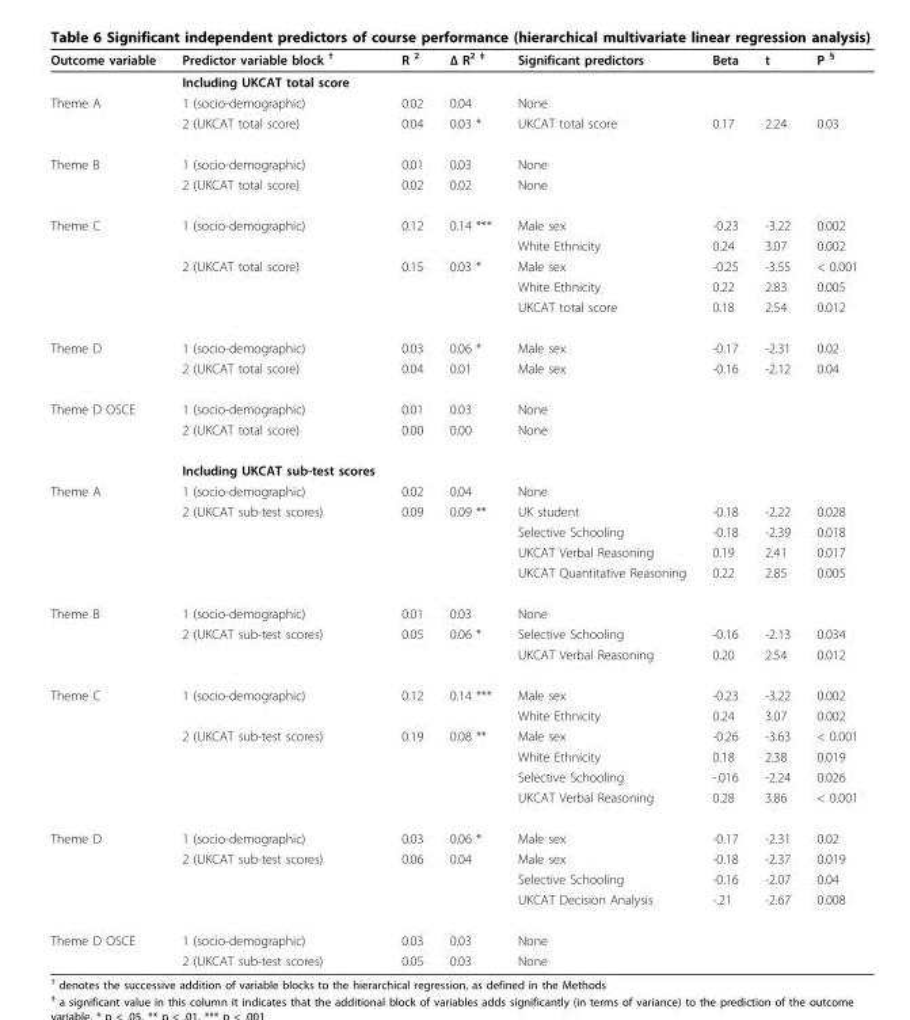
<table><thead><tr><td>Outcome variable</td><td>Predictor variable block <sup>†</sup></td><td>R <sup>2</sup></td><td>Δ R<sup>2 ‡</sup></td><td>Significant predictors</td><td>Beta</td><td>t</td><td>P <sup>§</sup></td></tr></thead><tbody><tr><td></td><td>Including UKCAT total score</td><td></td><td></td><td></td><td></td><td></td><td></td></tr><tr><td rowspan="2">Theme A</td><td>1 (socio-demographic)</td><td>0.02</td><td>0.04</td><td>None</td><td></td><td></td><td></td></tr><tr><td>2 (UKCAT total score)</td><td>0.04</td><td>0.03 *</td><td>UKCAT total score</td><td>0.17</td><td>2.24</td><td>0.03</td></tr><tr><td rowspan="2">Theme B</td><td>1 (socio-demographic)</td><td>0.01</td><td>0.03</td><td>None</td><td></td><td></td><td></td></tr><tr><td>2 (UKCAT total score)</td><td>0.02</td><td>0.02</td><td>None</td><td></td><td></td><td></td></tr><tr><td rowspan="5">Theme C</td><td>1 (socio-demographic)</td><td>0.12</td><td>0.14 ***</td><td>Male sex</td><td>-0.23</td><td>-3.22</td><td>0.002</td></tr><tr><td></td><td></td><td></td><td>White Ethnicity</td><td>0.24</td><td>3.07</td><td>0.002</td></tr><tr><td>2 (UKCAT total score)</td><td>0.15</td><td>0.03 *</td><td>Male sex</td><td>-0.25</td><td>-3.55</td><td>&lt; 0.001</td></tr><tr><td></td><td></td><td></td><td>White Ethnicity</td><td>0.22</td><td>2.83</td><td>0.005</td></tr><tr><td></td><td></td><td></td><td>UKCAT total score</td><td>0.18</td><td>2.54</td><td>0.012</td></tr><tr><td rowspan="2">Theme D</td><td>1 (socio-demographic)</td><td>0.03</td><td>0.06 *</td><td>Male sex</td><td>-0.17</td><td>-2.31</td><td>0.02</td></tr><tr><td>2 (UKCAT total score)</td><td>0.04</td><td>0.01</td><td>Male sex</td><td>-0.16</td><td>-2.12</td><td>0.04</td></tr><tr><td rowspan="3">Theme D OSCE</td><td>1 (socio-demographic)</td><td>0.01</td><td>0.03</td><td>None</td><td></td><td></td><td></td></tr><tr><td>2 (UKCAT total score)</td><td>0.00</td><td>0.00</td><td>None</td><td></td><td></td><td></td></tr><tr><td>Including UKCAT sub-test scores</td><td></td><td></td><td></td><td></td><td></td><td></td></tr><tr><td rowspan="5">Theme A</td><td>1 (socio-demographic)</td><td>0.02</td><td>0.04</td><td>None</td><td></td><td></td><td></td></tr><tr><td>2 (UKCAT sub-test scores)</td><td>0.09</td><td>0.09 **</td><td>UK student</td><td>-0.18</td><td>-2.22</td><td>0.028</td></tr><tr><td></td><td></td><td></td><td>Selective Schooling</td><td>-0.18</td><td>-2.39</td><td>0.018</td></tr><tr><td></td><td></td><td></td><td>UKCAT Verbal Reasoning</td><td>0.19</td><td>2.41</td><td>0.017</td></tr><tr><td></td><td></td><td></td><td>UKCAT Quantitative Reasoning</td><td>0.22</td><td>2.85</td><td>0.005</td></tr><tr><td rowspan="3">Theme B</td><td>1 (socio-demographic)</td><td>0.01</td><td>0.03</td><td>None</td><td></td><td></td><td></td></tr><tr><td>2 (UKCAT sub-test scores)</td><td>0.05</td><td>0.06 *</td><td>Selective Schooling</td><td>-0.16</td><td>-2.13</td><td>0.034</td></tr><tr><td></td><td></td><td></td><td>UKCAT Verbal Reasoning</td><td>0.20</td><td>2.54</td><td>0.012</td></tr><tr><td rowspan="6">Theme C</td><td>1 (socio-demographic)</td><td>0.12</td><td>0.14 ***</td><td>Male sex</td><td>-0.23</td><td>-3.22</td><td>0.002</td></tr><tr><td></td><td></td><td></td><td>White Ethnicity</td><td>0.24</td><td>3.07</td><td>0.002</td></tr><tr><td>2 (UKCAT sub-test scores)</td><td>0.19</td><td>0.08 **</td><td>Male sex</td><td>-0.26</td><td>-3.63</td><td>&lt; 0.001</td></tr><tr><td></td><td></td><td></td><td>White Ethnicity</td><td>0.18</td><td>2.38</td><td>0.019</td></tr><tr><td></td><td></td><td></td><td>Selective Schooling</td><td>-.016</td><td>-2.24</td><td>0.026</td></tr><tr><td></td><td></td><td></td><td>UKCAT Verbal Reasoning</td><td>0.28</td><td>3.86</td><td>&lt; 0.001</td></tr><tr><td rowspan="4">Theme D</td><td>1 (socio-demographic)</td><td>0.03</td><td>0.06 *</td><td>Male sex</td><td>-0.17</td><td>-2.31</td><td>0.02</td></tr><tr><td>2 (UKCAT sub-test scores)</td><td>0.06</td><td>0.04</td><td>Male sex</td><td>-0.18</td><td>-2.37</td><td>0.019</td></tr><tr><td></td><td></td><td></td><td>Selective Schooling</td><td>-0.16</td><td>-2.07</td><td>0.04</td></tr><tr><td></td><td></td><td></td><td>UKCAT Decision Analysis</td><td>-.21</td><td>-2.67</td><td>0.008</td></tr><tr><td rowspan="2">Theme D OSCE</td><td>1 (socio-demographic)</td><td>0.03</td><td>0.03</td><td>None</td><td></td><td></td><td></td></tr><tr><td>2 (UKCAT sub-test scores)</td><td>0.05</td><td>0.03</td><td>None</td><td></td><td></td><td></td></tr></tbody></table>